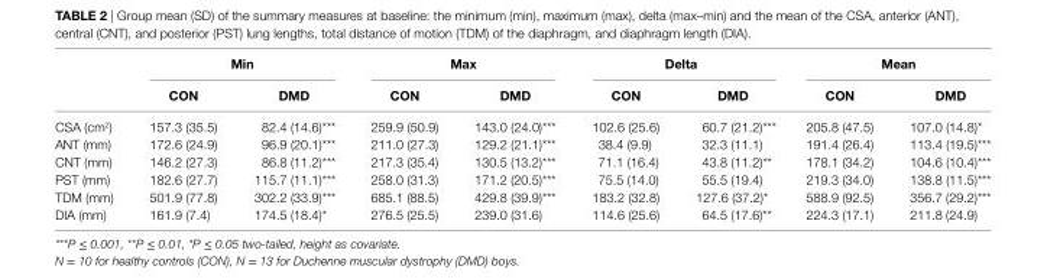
<table><thead><tr><td rowspan="2"></td><td colspan="2">Min</td><td colspan="2">Max</td><td colspan="2">Delta</td><td colspan="2">Mean</td></tr><tr><td>cOn</td><td>DMD</td><td>cOn</td><td>DMD</td><td>cOn</td><td>DMD</td><td>cOn</td><td>DMD</td></tr></thead><tbody><tr><td>CSA (cm<sup>2</sup>)</td><td>157.3 (35.5)</td><td>82.4 (14.6)***</td><td>259.9 (50.9)</td><td>143.0 (24.0)***</td><td>102.6 (25.6)</td><td>60.7 (21.2)***</td><td>205.8 (47.5)</td><td>107.0 (14.8)*</td></tr><tr><td>ANT (mm)</td><td>172.6 (24.9)</td><td>96.9 (20.1)***</td><td>211.0 (27.3)</td><td>129.2 (21.1)***</td><td>38.4 (9.9)</td><td>32.3 (11.1)</td><td>191.4 (26.4)</td><td>113.4 (19.5)***</td></tr><tr><td>CNT (mm)</td><td>146.2 (27.3)</td><td>86.8 (11.2)***</td><td>217.3 (35.4)</td><td>130.5 (13.2)***</td><td>71.1 (16.4)</td><td>43.8 (11.2)**</td><td>178.1 (34.2)</td><td>104.6 (10.4)***</td></tr><tr><td>PST (mm)</td><td>182.6 (27.7)</td><td>115.7 (11.1)***</td><td>258.0 (31.3)</td><td>171.2 (20.5)***</td><td>75.5 (14.0)</td><td>55.5 (19.4)</td><td>219.3 (34.0)</td><td>138.8 (11.5)***</td></tr><tr><td>TDM (mm)</td><td>501.9 (77.8)</td><td>302.2 (33.9)***</td><td>685.1 (88.5)</td><td>429.8 (39.9)***</td><td>183.2 (32.8)</td><td>127.6 (37.2)*</td><td>588.9 (92.5)</td><td>356.7 (29.2)***</td></tr><tr><td>DIA (mm)</td><td>161.9 (7.4)</td><td>174.5 (18.4)*</td><td>276.5 (25.5)</td><td>239.0 (31.6)</td><td>114.6 (25.6)</td><td>64.5 (17.6)**</td><td>224.3 (17.1)</td><td>211.8 (24.9)</td></tr></tbody></table>